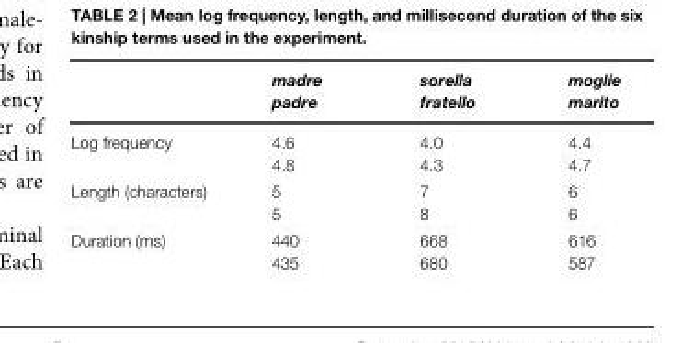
<table><thead><tr><td></td><td>madre padre</td><td>sorella fratello</td><td>moglie marito</td></tr></thead><tbody><tr><td>Log frequency</td><td>4.6 4.8</td><td>4.0 4.3</td><td>4.4 4.7</td></tr><tr><td>Length (characters)</td><td>5 5</td><td>7 8</td><td>6 6</td></tr><tr><td>Duration (ms)</td><td>440 435</td><td>668 680</td><td>616 587</td></tr></tbody></table>